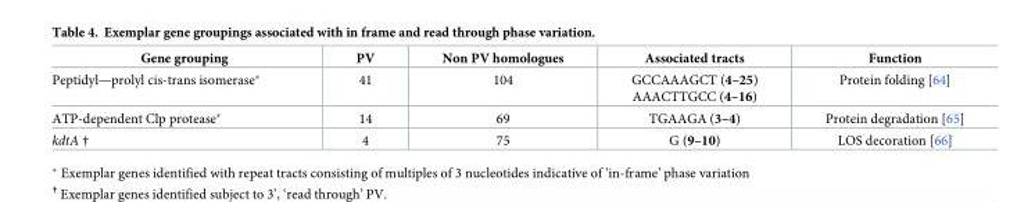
<table><thead><tr><td>Gene grouping</td><td>PV</td><td>Non PV homologues</td><td>Associated tracts</td><td>Function</td></tr></thead><tbody><tr><td>Peptidyl—prolyl cis-trans isomerase*</td><td>41</td><td>104</td><td>GCCAAAGCT (4–25) AAACTTGCC (4–16)</td><td>Protein folding [64]</td></tr><tr><td>ATP-dependent Clp protease*</td><td>14</td><td>69</td><td>TGAAGA (3–4)</td><td>Protein degradation [65]</td></tr><tr><td>kdtA †</td><td>4</td><td>75</td><td>G (9–10)</td><td>LOS decoration [66]</td></tr></tbody></table>